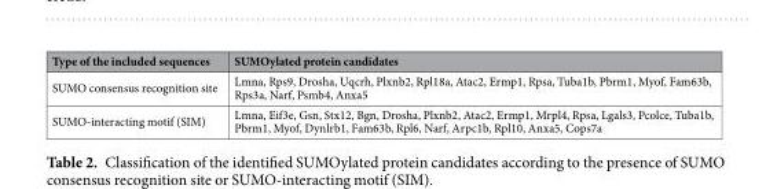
<table><thead><tr><td>Type of the included sequences</td><td>SUMOylated protein candidates</td></tr></thead><tbody><tr><td>SUMO consensus recognition site</td><td>Lmna, Rps9, Drosha, Uqcrh, Plxnb2, Rpl18a, Atac2, Ermp1, Rpsa, Tuba1b, Pbrm1, Myof, Fam63b, Rps3a, Narf, Psmb4, Anxa5</td></tr><tr><td>SUMO-interacting motif (SIM)</td><td>Lmna, Eif3e, Gsn, Stx12, Bgn, Drosha, Plxnb2, Atac2, Ermp1, Mrpl4, Rpsa, Lgals3, Pcolce, Tuba1b, Pbrm1, Myof, Dynlrb1, Fam63b, Rpl6, Narf, Arpc1b, Rpl10, Anxa5, Cops7a</td></tr></tbody></table>